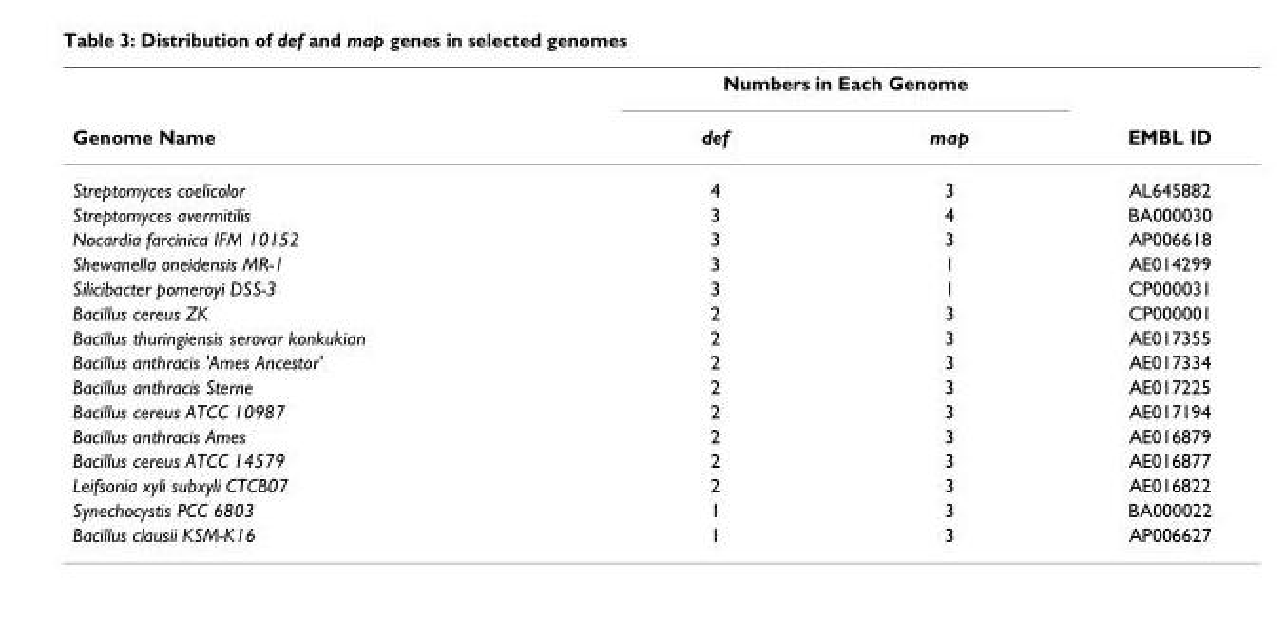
<table><thead><tr><td rowspan="2">Genome Name</td><td colspan="2">Numbers in Each Genome</td><td rowspan="2">EMBL ID</td></tr><tr><td>def</td><td>map</td></tr></thead><tbody><tr><td>Streptomyces coelicolor</td><td>4</td><td>3</td><td>AL645882</td></tr><tr><td>Streptomyces avermitilis</td><td>3</td><td>4</td><td>BA000030</td></tr><tr><td>Nocardia farcinica IFM 10152</td><td>3</td><td>3</td><td>AP006618</td></tr><tr><td>Shewanella oneidensis MR-1</td><td>3</td><td>1</td><td>AE014299</td></tr><tr><td>Silicibacter pomeroyi DSS-3</td><td>3</td><td>1</td><td>CP000031</td></tr><tr><td>Bacillus cereus ZK</td><td>2</td><td>3</td><td>CP000001</td></tr><tr><td>Bacillus thuringiensis serovar konkukian</td><td>2</td><td>3</td><td>AE017355</td></tr><tr><td>Bacillus anthracis &#x27;Ames Ancestor&#x27;</td><td>2</td><td>3</td><td>AE017334</td></tr><tr><td>Bacillus anthracis Sterne</td><td>2</td><td>3</td><td>AE017225</td></tr><tr><td>Bacillus cereus ATCC 10987</td><td>2</td><td>3</td><td>AE017194</td></tr><tr><td>Bacillus anthracis Ames</td><td>2</td><td>3</td><td>AE016879</td></tr><tr><td>Bacillus cereus ATCC 14579</td><td>2</td><td>3</td><td>AE016877</td></tr><tr><td>Leifsonia xyli subxyli CTCB07</td><td>2</td><td>3</td><td>AE016822</td></tr><tr><td>Synechocystis PCC 6803</td><td>1</td><td>3</td><td>BA000022</td></tr><tr><td>Bacillus clausii KSM-K16</td><td>1</td><td>3</td><td>AP006627</td></tr></tbody></table>